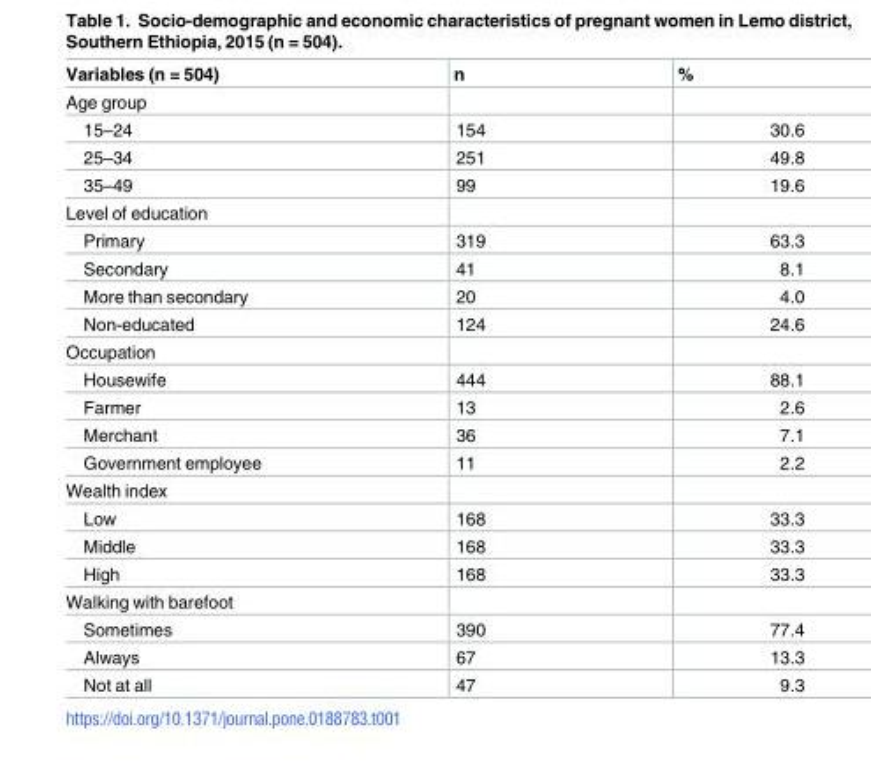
<table><thead><tr><td>Variables (n = 504)</td><td>n</td><td>%</td></tr></thead><tbody><tr><td colspan="3">Age group</td></tr><tr><td>15–24</td><td>154</td><td>30.6</td></tr><tr><td>25–34</td><td>251</td><td>49.8</td></tr><tr><td>35–49</td><td>99</td><td>19.6</td></tr><tr><td colspan="3">Level of education</td></tr><tr><td>Primary</td><td>319</td><td>63.3</td></tr><tr><td>Secondary</td><td>41</td><td>8.1</td></tr><tr><td>More than secondary</td><td>20</td><td>4.0</td></tr><tr><td>Non-educated</td><td>124</td><td>24.6</td></tr><tr><td colspan="3">Occupation</td></tr><tr><td>Housewife</td><td>444</td><td>88.1</td></tr><tr><td>Farmer</td><td>13</td><td>2.6</td></tr><tr><td>Merchant</td><td>36</td><td>7.1</td></tr><tr><td>Government employee</td><td>11</td><td>2.2</td></tr><tr><td colspan="3">Wealth index</td></tr><tr><td>Low</td><td>168</td><td>33.3</td></tr><tr><td>Middle</td><td>168</td><td>33.3</td></tr><tr><td>High</td><td>168</td><td>33.3</td></tr><tr><td colspan="3">Walking with barefoot</td></tr><tr><td>Sometimes</td><td>390</td><td>77.4</td></tr><tr><td>Always</td><td>67</td><td>13.3</td></tr><tr><td>Not at all</td><td>47</td><td>9.3</td></tr></tbody></table>